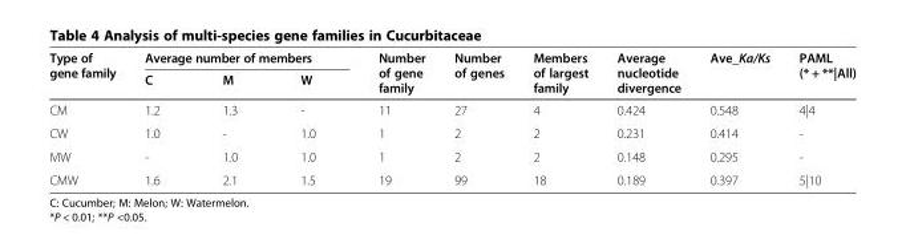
<table><thead><tr><td rowspan="2">Type of gene family</td><td colspan="3">Average number of members</td><td rowspan="2">Number of gene family</td><td rowspan="2">Number of genes</td><td rowspan="2">Members of largest family</td><td rowspan="2">Average nucleotide divergence</td><td rowspan="2">Ave_Ka/Ks</td><td rowspan="2">PAML (* + **|All)</td></tr><tr><td>C</td><td>M</td><td>W</td></tr></thead><tbody><tr><td>CM</td><td>1.2</td><td>1.3</td><td>-</td><td>11</td><td>27</td><td>4</td><td>0.424</td><td>0.548</td><td>4|4</td></tr><tr><td>CW</td><td>1.0</td><td>-</td><td>1.0</td><td>1</td><td>2</td><td>2</td><td>0.231</td><td>0.414</td><td>-</td></tr><tr><td>MW</td><td>-</td><td>1.0</td><td>1.0</td><td>1</td><td>2</td><td>2</td><td>0.148</td><td>0.295</td><td>-</td></tr><tr><td>CMW</td><td>1.6</td><td>2.1</td><td>1.5</td><td>19</td><td>99</td><td>18</td><td>0.189</td><td>0.397</td><td>5|10</td></tr></tbody></table>